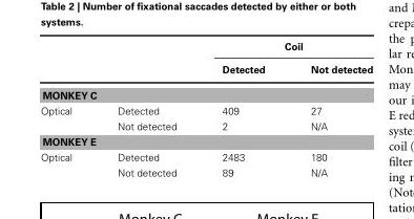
<table><thead><tr><td rowspan="2"></td><td rowspan="2"></td><td colspan="2">Coil</td></tr><tr><td>Detected</td><td>Not detected</td></tr></thead><tbody><tr><td colspan="4">MONKEY C</td></tr><tr><td rowspan="2">Optical</td><td>Detected</td><td>409</td><td>27</td></tr><tr><td>Not detected</td><td>2</td><td>N/A</td></tr><tr><td colspan="4">MONKEY E</td></tr><tr><td rowspan="2">Optical</td><td>Detected</td><td>2483</td><td>180</td></tr><tr><td>Not detected</td><td>89</td><td>N/A</td></tr></tbody></table>